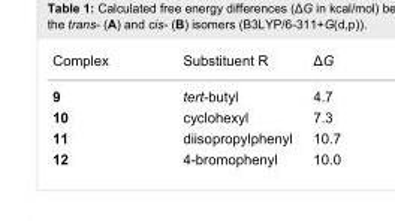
<table><tbody><tr><td>Complex</td><td>Substituent R</td><td>ΔG</td></tr><tr><td>9</td><td>tert-butyl</td><td>4.7</td></tr><tr><td>10</td><td>cyclohexyl</td><td>7.3</td></tr><tr><td>11</td><td>diisopropylphenyl</td><td>10.7</td></tr><tr><td>12</td><td>4-bromophenyl</td><td>10.0</td></tr></tbody></table>